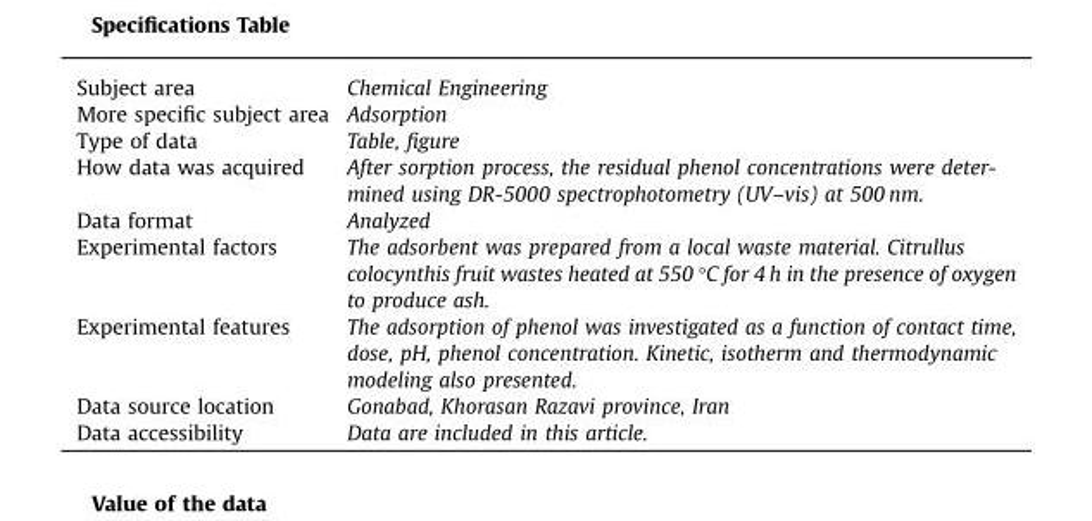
<table><tbody><tr><td>Subject area</td><td>Chemical Engineering</td></tr><tr><td>More specific subject area</td><td>Adsorption</td></tr><tr><td>Type of data</td><td>Table, figure</td></tr><tr><td>How data was acquired</td><td>After sorption process, the residual phenol concentrations were deter- mined using DR-5000 spectrophotometry (UV–vis) at 500 nm.</td></tr><tr><td>Data format</td><td>Analyzed</td></tr><tr><td>Experimental factors</td><td>The adsorbent was prepared from a local waste material. Citrullus colocynthis fruit wastes heated at 550 °C for 4 h in the presence of oxygen to produce ash.</td></tr><tr><td>Experimental features</td><td>The adsorption of phenol was investigated as a function of contact time, dose, pH, phenol concentration. Kinetic, isotherm and thermodynamic modeling also presented.</td></tr><tr><td>Data source location</td><td>Gonabad, Khorasan Razavi province, Iran</td></tr><tr><td>Data accessibility</td><td>Data are included in this article.</td></tr></tbody></table>